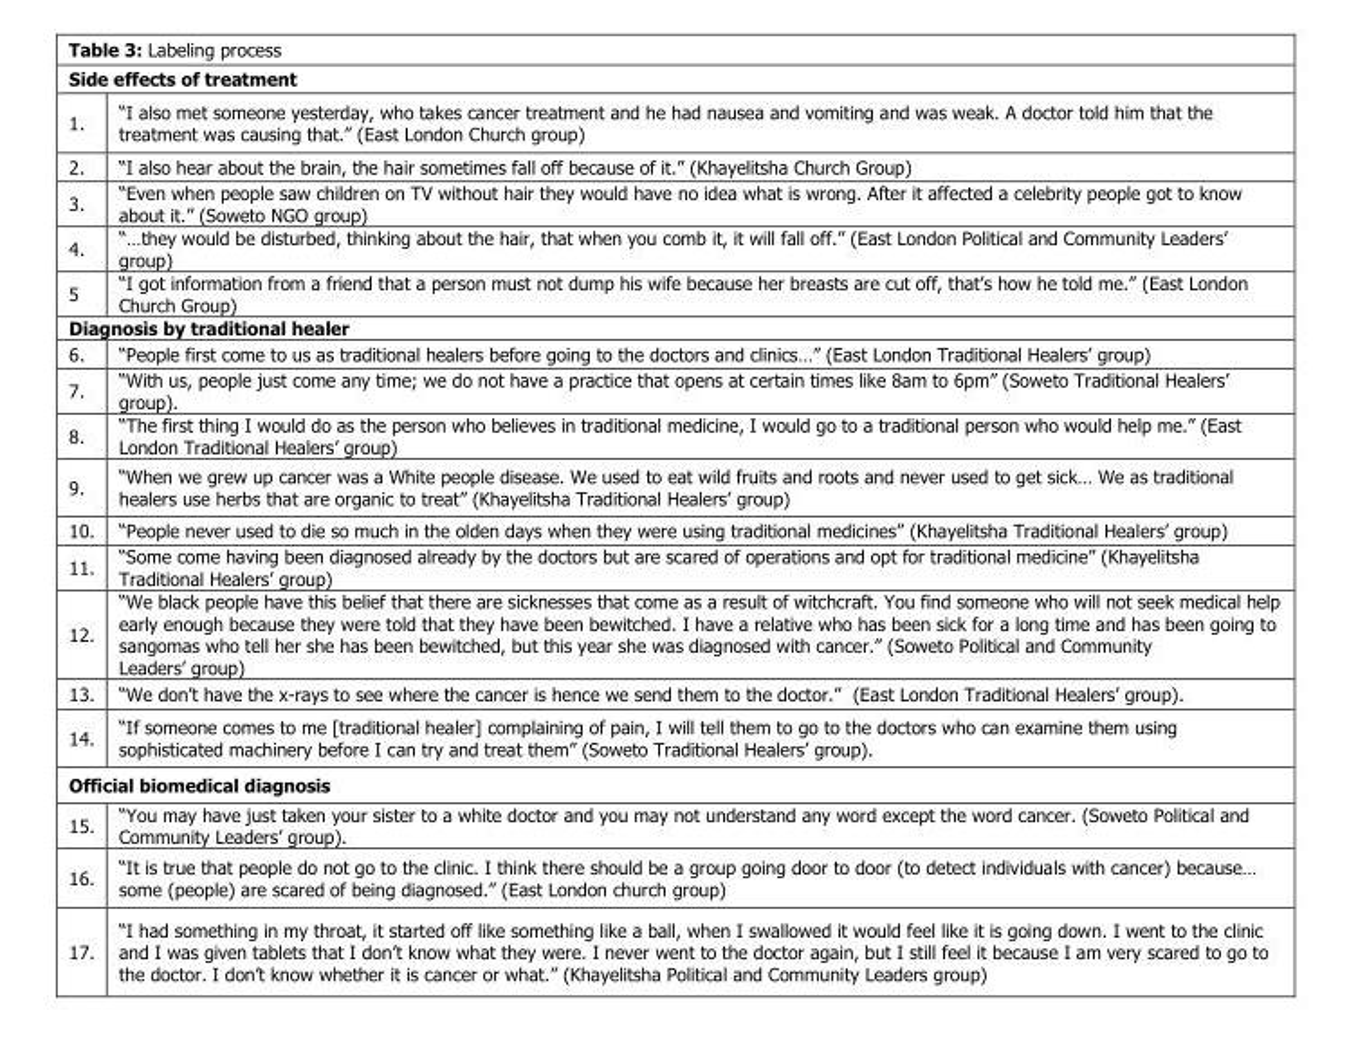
<table><thead><tr><td colspan="2">Side effects of treatment</td></tr><tr><td>1.</td><td>“I also met someone yesterday, who takes cancer treatment and he had nausea and vomiting and was weak. A doctor told him that the treatment was causing that.” (East London Church group)</td></tr></thead><tbody><tr><td>2.</td><td>“I also hear about the brain, the hair sometimes fall off because of it.” (Khayelitsha Church Group)</td></tr><tr><td>3.</td><td>“Even when people saw children on TV without hair they would have no idea what is wrong. After it affected a celebrity people got to know about it.” (Soweto NGO group)</td></tr><tr><td>4.</td><td>“…they would be disturbed, thinking about the hair, that when you comb it, it will fall off.” (East London Political and Community Leaders’ group)</td></tr><tr><td>5</td><td>“I got information from a friend that a person must not dump his wife because her breasts are cut off, that’s how he told me.” (East London Church Group)</td></tr><tr><td colspan="2">Diagnosis by traditional healer</td></tr><tr><td>6.</td><td>“People first come to us as traditional healers before going to the doctors and clinics…” (East London Traditional Healers’ group)</td></tr><tr><td>7.</td><td>“With us, people just come any time; we do not have a practice that opens at certain times like 8am to 6pm” (Soweto Traditional Healers’ group).</td></tr><tr><td>8.</td><td>“The first thing I would do as the person who believes in traditional medicine, I would go to a traditional person who would help me.” (East London Traditional Healers’ group)</td></tr><tr><td>9.</td><td>“When we grew up cancer was a White people disease. We used to eat wild fruits and roots and never used to get sick… We as traditional healers use herbs that are organic to treat” (Khayelitsha Traditional Healers’ group)</td></tr><tr><td>10.</td><td>“People never used to die so much in the olden days when they were using traditional medicines” (Khayelitsha Traditional Healers’ group)</td></tr><tr><td>11.</td><td>“Some come having been diagnosed already by the doctors but are scared of operations and opt for traditional medicine” (Khayelitsha Traditional Healers’ group)</td></tr><tr><td>12.</td><td>“We black people have this belief that there are sicknesses that come as a result of witchcraft. You find someone who will not seek medical help early enough because they were told that they have been bewitched. I have a relative who has been sick for a long time and has been going to sangomas who tell her she has been bewitched, but this year she was diagnosed with cancer.” (Soweto Political and Community Leaders’ group)</td></tr><tr><td>13.</td><td>“We don’t have the x-rays to see where the cancer is hence we send them to the doctor.” (East London Traditional Healers’ group).</td></tr><tr><td>14.</td><td>“If someone comes to me [traditional healer] complaining of pain, I will tell them to go to the doctors who can examine them using sophisticated machinery before I can try and treat them” (Soweto Traditional Healers’ group).</td></tr><tr><td colspan="2">Official biomedical diagnosis</td></tr><tr><td>15.</td><td>“You may have just taken your sister to a white doctor and you may not understand any word except the word cancer. (Soweto Political and Community Leaders’ group).</td></tr><tr><td>16.</td><td>“It is true that people do not go to the clinic. I think there should be a group going door to door (to detect individuals with cancer) because… some (people) are scared of being diagnosed.” (East London church group)</td></tr><tr><td>17.</td><td>“I had something in my throat, it started off like something like a ball, when I swallowed it would feel like it is going down. I went to the clinic and I was given tablets that I don’t know what they were. I never went to the doctor again, but I still feel it because I am very scared to go to the doctor. I don’t know whether it is cancer or what.” (Khayelitsha Political and Community Leaders group)</td></tr></tbody></table>